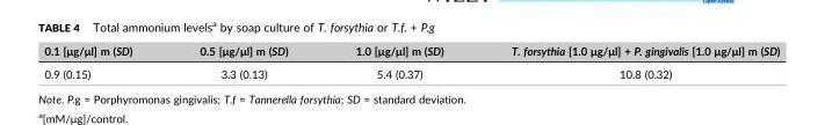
<table><thead><tr><td>0.1 [μg/μl] m (SD)</td><td>0.5 [μg/μl] m (SD)</td><td>1.0 [μg/μl] m (SD)</td><td>T. forsythia [1.0 μg/μl] + P. gingivalis [1.0 μg/μl] m (SD)</td></tr></thead><tbody><tr><td>0.9 (0.15)</td><td>3.3 (0.13)</td><td>5.4 (0.37)</td><td>10.8 (0.32)</td></tr></tbody></table>